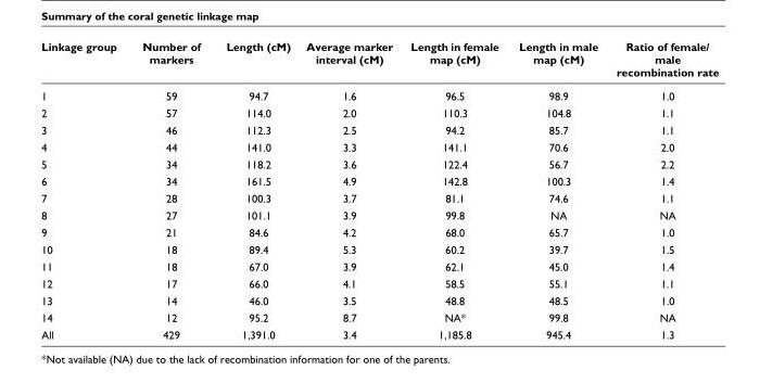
<table><thead><tr><td>Linkage group</td><td>Number of markers</td><td>Length (cM)</td><td>Average marker interval (cM)</td><td>Length in female map (cM)</td><td>Length in male map (cM)</td><td>Ratio of female/ male recombination rate</td></tr></thead><tbody><tr><td>1</td><td>59</td><td>94.7</td><td>1.6</td><td>96.5</td><td>98.9</td><td>1.0</td></tr><tr><td>2</td><td>57</td><td>114.0</td><td>2.0</td><td>110.3</td><td>104.8</td><td>1.1</td></tr><tr><td>3</td><td>46</td><td>112.3</td><td>2.5</td><td>94.2</td><td>85.7</td><td>1.1</td></tr><tr><td>4</td><td>44</td><td>141.0</td><td>3.3</td><td>141.1</td><td>70.6</td><td>2.0</td></tr><tr><td>5</td><td>34</td><td>118.2</td><td>3.6</td><td>122.4</td><td>56.7</td><td>2.2</td></tr><tr><td>6</td><td>34</td><td>161.5</td><td>4.9</td><td>142.8</td><td>100.3</td><td>1.4</td></tr><tr><td>7</td><td>28</td><td>100.3</td><td>3.7</td><td>81.1</td><td>74.6</td><td>1.1</td></tr><tr><td>8</td><td>27</td><td>101.1</td><td>3.9</td><td>99.8</td><td>NA</td><td>NA</td></tr><tr><td>9</td><td>21</td><td>84.6</td><td>4.2</td><td>68.0</td><td>65.7</td><td>1.0</td></tr><tr><td>10</td><td>18</td><td>89.4</td><td>5.3</td><td>60.2</td><td>39.7</td><td>1.5</td></tr><tr><td>11</td><td>18</td><td>67.0</td><td>3.9</td><td>62.1</td><td>45.0</td><td>1.4</td></tr><tr><td>12</td><td>17</td><td>66.0</td><td>4.1</td><td>58.5</td><td>55.1</td><td>1.1</td></tr><tr><td>13</td><td>14</td><td>46.0</td><td>3.5</td><td>48.8</td><td>48.5</td><td>1.0</td></tr><tr><td>14</td><td>12</td><td>95.2</td><td>8.7</td><td>NA*</td><td>99.8</td><td>NA</td></tr><tr><td>All</td><td>429</td><td>1,391.0</td><td>3.4</td><td>1,185.8</td><td>945.4</td><td>1.3</td></tr></tbody></table>